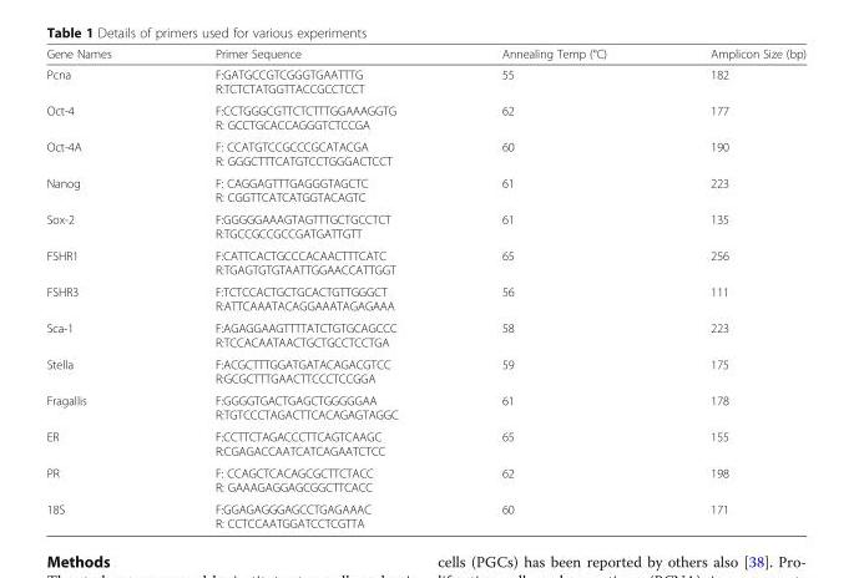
<table><thead><tr><td>Gene Names</td><td>Primer Sequence</td><td>Annealing Temp (°C)</td><td>Amplicon Size (bp)</td></tr></thead><tbody><tr><td>Pcna</td><td>F:GATGCCGTCGGGTGAATTTG R:TCTCTATGGTTACCGCCTCCT</td><td>55</td><td>182</td></tr><tr><td>Oct-4</td><td>F:CCTGGGCGTTCTCTTTGGAAAGGTG R: GCCTGCACCAGGGTCTCCGA</td><td>62</td><td>177</td></tr><tr><td>Oct-4A</td><td>F: CCATGTCCGCCCGCATACGA R: GGGCTTTCATGTCCTGGGACTCCT</td><td>60</td><td>190</td></tr><tr><td>Nanog</td><td>F: CAGGAGTTTGAGGGTAGCTC R: CGGTTCATCATGGTACAGTC</td><td>61</td><td>223</td></tr><tr><td>Sox-2</td><td>F:GGGGGAAAGTAGTTTGCTGCCTCT R:TGCCGCCGCCGATGATTGTT</td><td>61</td><td>135</td></tr><tr><td>FSHR1</td><td>F:CATTCACTGCCCACAACTTTCATC R:TGAGTGTGTAATTGGAACCATTGGT</td><td>65</td><td>256</td></tr><tr><td>FSHR3</td><td>F:TCTCCACTGCTGCACTGTTGGGCT R:ATTCAAATACAGGAAATAGAGAAA</td><td>56</td><td>111</td></tr><tr><td>Sca-1</td><td>F:AGAGGAAGTTTTATCTGTGCAGCCC R:TCCACAATAACTGCTGCCTCCTGA</td><td>58</td><td>223</td></tr><tr><td>Stella</td><td>F:ACGCTTTGGATGATACAGACGTCC R:GCGCTTTGAACTTCCCTCCGGA</td><td>59</td><td>175</td></tr><tr><td>Fragallis</td><td>F:GGGGTGACTGAGCTGGGGGAA R:TGTCCCTAGACTTCACAGAGTAGGC</td><td>61</td><td>178</td></tr><tr><td>ER</td><td>F:CCTTCTAGACCCTTCAGTCAAGC R:CGAGACCAATCATCAGAATCTCC</td><td>65</td><td>155</td></tr><tr><td>PR</td><td>F: CCAGCTCACAGCGCTTCTACC R: GAAAGAGGAGCGGCTTCACC</td><td>62</td><td>198</td></tr><tr><td>18S</td><td>F:GGAGAGGGAGCCTGAGAAAC R: CCTCCAATGGATCCTCGTTA</td><td>60</td><td>171</td></tr></tbody></table>